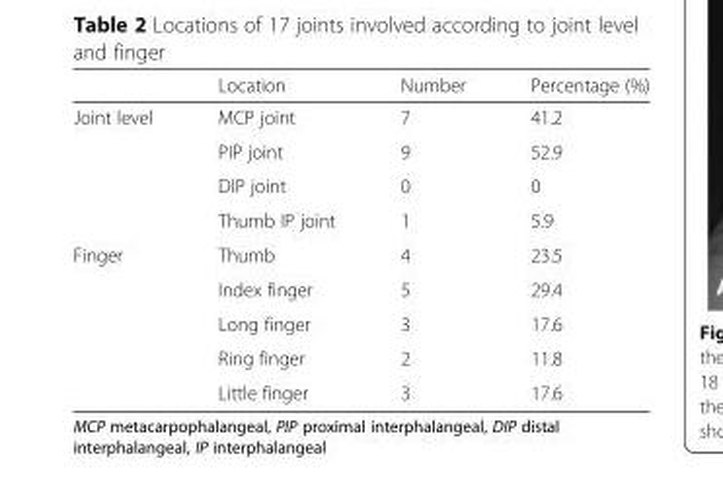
<table><thead><tr><td></td><td>Location</td><td>Number</td><td>Percentage (%)</td></tr></thead><tbody><tr><td rowspan="4">Joint level</td><td>MCP joint</td><td>7</td><td>41.2</td></tr><tr><td>PIP joint</td><td>9</td><td>52.9</td></tr><tr><td>DIP joint</td><td>0</td><td>0</td></tr><tr><td>Thumb IP joint</td><td>1</td><td>5.9</td></tr><tr><td rowspan="5">Finger</td><td>Thumb</td><td>4</td><td>23.5</td></tr><tr><td>Index finger</td><td>5</td><td>29.4</td></tr><tr><td>Long finger</td><td>3</td><td>17.6</td></tr><tr><td>Ring finger</td><td>2</td><td>11.8</td></tr><tr><td>Little finger</td><td>3</td><td>17.6</td></tr></tbody></table>